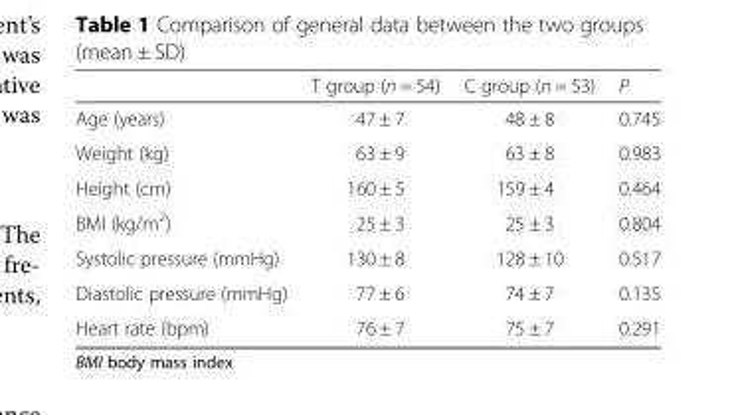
<table><thead><tr><td></td><td>T group (n = 54)</td><td>C group (n = 53)</td><td>P</td></tr></thead><tbody><tr><td>Age (years)</td><td>47 ± 7</td><td>48 ± 8</td><td>0.745</td></tr><tr><td>Weight (kg)</td><td>63 ± 9</td><td>63 ± 8</td><td>0.983</td></tr><tr><td>Height (cm)</td><td>160 ± 5</td><td>159 ± 4</td><td>0.464</td></tr><tr><td>BMI (kg/m<sup>2</sup>)</td><td>25 ± 3</td><td>25 ± 3</td><td>0.804</td></tr><tr><td>Systolic pressure (mmHg)</td><td>130 ± 8</td><td>128 ± 10</td><td>0.517</td></tr><tr><td>Diastolic pressure (mmHg)</td><td>77 ± 6</td><td>74 ± 7</td><td>0.135</td></tr><tr><td>Heart rate (bpm)</td><td>76 ± 7</td><td>75 ± 7</td><td>0.291</td></tr></tbody></table>